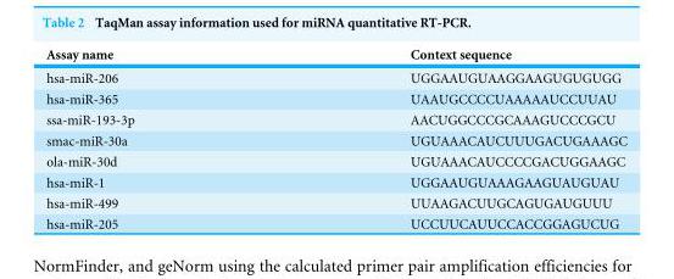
<table><thead><tr><td>Assay name</td><td>Context sequence</td></tr></thead><tbody><tr><td>hsa-miR-206</td><td>UGGAAUGUAAGGAAGUGUGUGG</td></tr><tr><td>hsa-miR-365</td><td>UAAUGCCCCUAAAAAUCCUUAU</td></tr><tr><td>ssa-miR-193-3p</td><td>AACUGGCCCGCAAAGUCCCGCU</td></tr><tr><td>smac-miR-30a</td><td>UGUAAACAUCUUUGACUGAAAGC</td></tr><tr><td>ola-miR-30d</td><td>UGUAAACAUCCCCGACUGGAAGC</td></tr><tr><td>hsa-miR-1</td><td>UGGAAUGUAAAGAAGUAUGUAU</td></tr><tr><td>hsa-miR-499</td><td>UUAAGACUUGCAGUGAUGUUU</td></tr><tr><td>hsa-miR-205</td><td>UCCUUCAUUCCACCGGAGUCUG</td></tr></tbody></table>